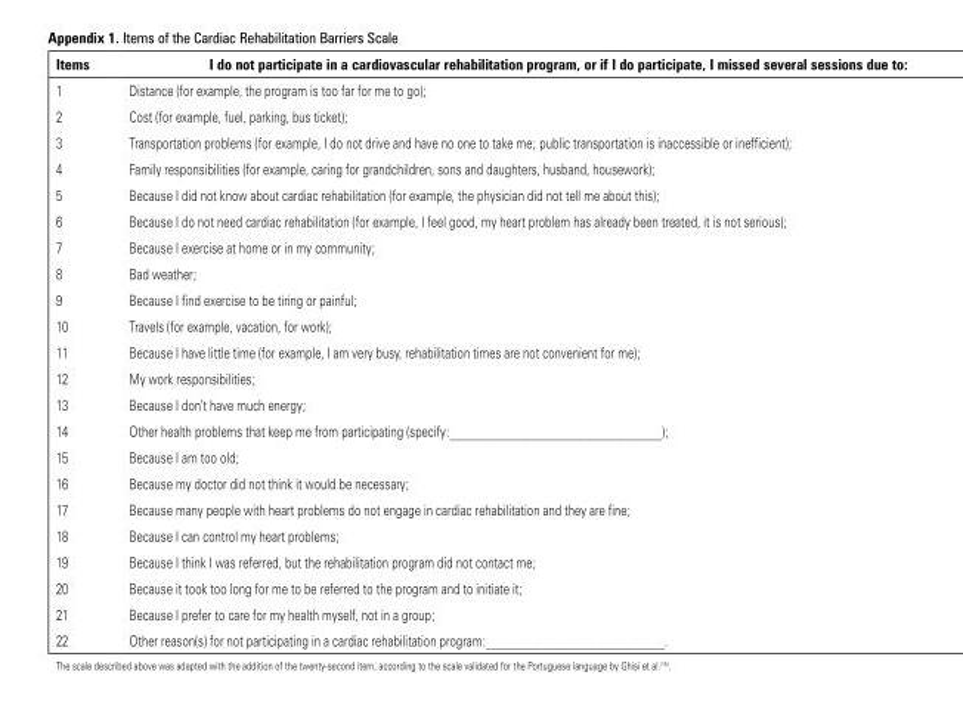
<table><thead><tr><td>Items</td><td>I do not participate in a cardiovascular rehabilitation program, or if I do participate, I missed several sessions due to:</td></tr></thead><tbody><tr><td>1</td><td>Distance (for example, the program is too far for me to go);</td></tr><tr><td>2</td><td>Cost (for example, fuel, parking, bus ticket);</td></tr><tr><td>3</td><td>Transportation problems (for example, I do not drive and have no one to take me; public transportation is inaccessible or inefficient);</td></tr><tr><td>4</td><td>Family responsibilities (for example, caring for grandchildren, sons and daughters, husband, housework);</td></tr><tr><td>5</td><td>Because I did not know about cardiac rehabilitation (for example, the physician did not tell me about this);</td></tr><tr><td>6</td><td>Because I do not need cardiac rehabilitation (for example, I feel good, my heart problem has already been treated, it is not serious);</td></tr><tr><td>7</td><td>Because I exercise at home or in my community;</td></tr><tr><td>8</td><td>Bad weather;</td></tr><tr><td>9</td><td>Because I find exercise to be tiring or painful;</td></tr><tr><td>10</td><td>Travels (for example, vacation, for work);</td></tr><tr><td>11</td><td>Because I have little time (for example, I am very busy, rehabilitation times are not convenient for me);</td></tr><tr><td>12</td><td>My work responsibilities;</td></tr><tr><td>13</td><td>Because I don’t have much energy;</td></tr><tr><td>14</td><td>Other health problems that keep me from participating (specify:______________________________________);</td></tr><tr><td>15</td><td>Because I am too old;</td></tr><tr><td>16</td><td>Because my doctor did not think it would be necessary;</td></tr><tr><td>17</td><td>Because many people with heart problems do not engage in cardiac rehabilitation and they are fine;</td></tr><tr><td>18</td><td>Because I can control my heart problems;</td></tr><tr><td>19</td><td>Because I think I was referred, but the rehabilitation program did not contact me;</td></tr><tr><td>20</td><td>Because it took too long for me to be referred to the program and to initiate it;</td></tr><tr><td>21</td><td>Because I prefer to care for my health myself, not in a group;</td></tr><tr><td>22</td><td>Other reason(s) for not participating in a cardiac rehabilitation program:________________________________.</td></tr></tbody></table>